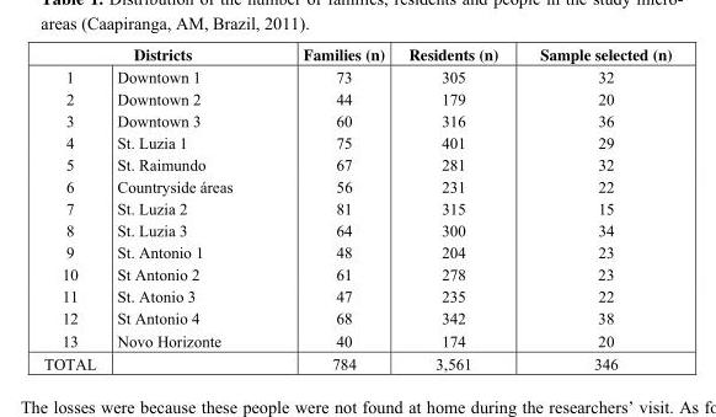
<table><thead><tr><td colspan="2">Districts</td><td rowspan="2">Families (n) 73</td><td rowspan="2">Residents (n) 305</td><td rowspan="2">Sample selected (n) 32</td></tr><tr><td>1</td><td>Downtown 1</td></tr></thead><tbody><tr><td>2</td><td>Downtown 2</td><td>44</td><td>179</td><td>20</td></tr><tr><td>3</td><td>Downtown 3</td><td>60</td><td>316</td><td>36</td></tr><tr><td>4</td><td>St. Luzia 1</td><td>75</td><td>401</td><td>29</td></tr><tr><td>5</td><td>St. Raimundo</td><td>67</td><td>281</td><td>32</td></tr><tr><td>6</td><td>Countryside áreas</td><td>56</td><td>231</td><td>22</td></tr><tr><td>7</td><td>St. Luzia 2</td><td>81</td><td>315</td><td>15</td></tr><tr><td>8</td><td>St. Luzia 3</td><td>64</td><td>300</td><td>34</td></tr><tr><td>9</td><td>St. Antonio 1</td><td>48</td><td>204</td><td>23</td></tr><tr><td>10</td><td>St Antonio 2</td><td>61</td><td>278</td><td>23</td></tr><tr><td>11</td><td>St. Atonio 3</td><td>47</td><td>235</td><td>22</td></tr><tr><td>12</td><td>St Antonio 4</td><td>68</td><td>342</td><td>38</td></tr><tr><td>13</td><td>Novo Horizonte</td><td>40</td><td>174</td><td>20</td></tr><tr><td>TOTAL</td><td></td><td>784</td><td>3,561</td><td>346</td></tr></tbody></table>